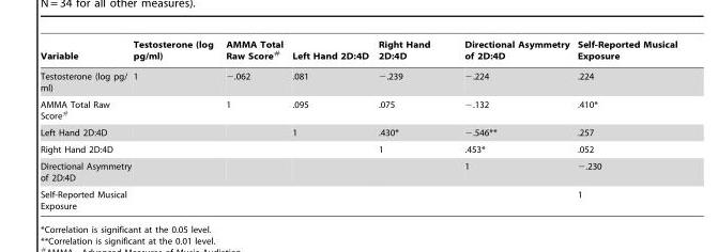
<table><thead><tr><td>Variable</td><td>Testosterone (log pg/ml)</td><td>AMMA Total Raw Score#</td><td>Left Hand 2D:4D</td><td>Right Hand 2D:4D</td><td>Directional Asymmetry of 2D:4D</td><td>Self-Reported Musical Exposure</td></tr></thead><tbody><tr><td>Testosterone (log pg/ ml)</td><td>1</td><td>−.062</td><td>.081</td><td>−.239</td><td>−.224</td><td>.224</td></tr><tr><td>AMMA Total Raw Score#</td><td></td><td>1</td><td>.095</td><td>.075</td><td>−.132</td><td>.410*</td></tr><tr><td>Left Hand 2D:4D</td><td></td><td></td><td>1</td><td>.430*</td><td>−.546**</td><td>.257</td></tr><tr><td>Right Hand 2D:4D</td><td></td><td></td><td></td><td>1</td><td>.453*</td><td>.052</td></tr><tr><td>Directional Asymmetry of 2D:4D</td><td></td><td></td><td></td><td></td><td>1</td><td>−.230</td></tr><tr><td>Self-Reported Musical Exposure</td><td></td><td></td><td></td><td></td><td></td><td>1</td></tr></tbody></table>